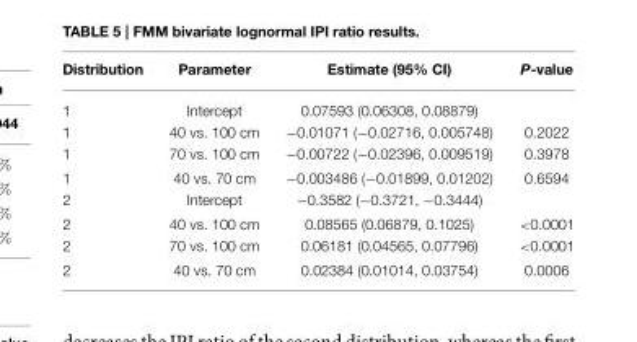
<table><thead><tr><td>Distribution</td><td>Parameter</td><td>Estimate (95% CI)</td><td>P-value</td></tr></thead><tbody><tr><td>1</td><td>Intercept</td><td>0.07593 (0.06308, 0.08879)</td><td></td></tr><tr><td>1</td><td>40 vs. 100 cm</td><td>−0.01071 (−0.02716, 0.005748)</td><td>0.2022</td></tr><tr><td>1</td><td>70 vs. 100 cm</td><td>−0.00722 (−0.02396, 0.009519)</td><td>0.3978</td></tr><tr><td>1</td><td>40 vs. 70 cm</td><td>−0.003486 (−0.01899, 0.01202)</td><td>0.6594</td></tr><tr><td>2</td><td>Intercept</td><td>−0.3582 (−0.3721, −0.3444)</td><td></td></tr><tr><td>2</td><td>40 vs. 100 cm</td><td>0.08565 (0.06879, 0.1025)</td><td>&lt;0.0001</td></tr><tr><td>2</td><td>70 vs. 100 cm</td><td>0.06181 (0.04565, 0.07796)</td><td>&lt;0.0001</td></tr><tr><td>2</td><td>40 vs. 70 cm</td><td>0.02384 (0.01014, 0.03754)</td><td>0.0006</td></tr></tbody></table>